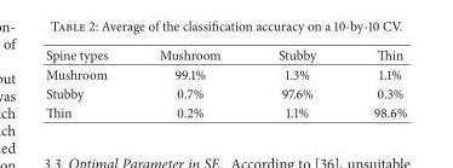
<table><thead><tr><td>Spine types</td><td>Mushroom</td><td>Stubby</td><td>Thin</td></tr></thead><tbody><tr><td>Mushroom</td><td>99.1%</td><td>1.3%</td><td>1.1%</td></tr><tr><td>Stubby</td><td>0.7%</td><td>97.6%</td><td>0.3%</td></tr><tr><td>Thin</td><td>0.2%</td><td>1.1%</td><td>98.6%</td></tr></tbody></table>